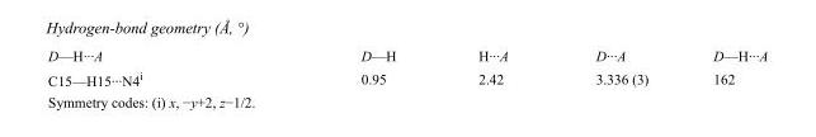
<table><tbody><tr><td>D—H···A</td><td>D—H</td><td>H···A</td><td>D···A</td><td>D—H···A</td></tr><tr><td>C15—H15···N4<sup>i</sup></td><td>0.95</td><td>2.42</td><td>3.336 (3)</td><td>162</td></tr></tbody></table>